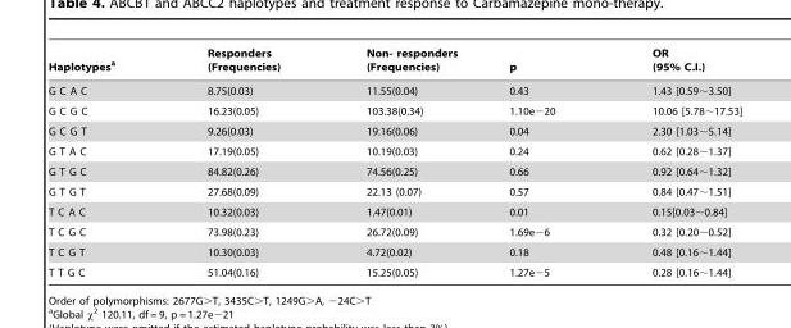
<table><thead><tr><td>Haplotypes<sup>a</sup></td><td>Responders (Frequencies)</td><td>Non- responders (Frequencies)</td><td>p</td><td>OR (95% C.I.)</td></tr></thead><tbody><tr><td>G C A C</td><td>8.75(0.03)</td><td>11.55(0.04)</td><td>0.43</td><td>1.43 [0.59∼3.50]</td></tr><tr><td>G C G C</td><td>16.23(0.05)</td><td>103.38(0.34)</td><td>1.10e−20</td><td>10.06 [5.78∼17.53]</td></tr><tr><td>G C G T</td><td>9.26(0.03)</td><td>19.16(0.06)</td><td>0.04</td><td>2.30 [1.03∼5.14]</td></tr><tr><td>G T A C</td><td>17.19(0.05)</td><td>10.19(0.03)</td><td>0.24</td><td>0.62 [0.28∼1.37]</td></tr><tr><td>G T G C</td><td>84.82(0.26)</td><td>74.56(0.25)</td><td>0.66</td><td>0.92 [0.64∼1.32]</td></tr><tr><td>G T G T</td><td>27.68(0.09)</td><td>22.13 (0.07)</td><td>0.57</td><td>0.84 [0.47∼1.51]</td></tr><tr><td>T C A C</td><td>10.32(0.03)</td><td>1.47(0.01)</td><td>0.01</td><td>0.15[0.03∼0.84]</td></tr><tr><td>T C G C</td><td>73.98(0.23)</td><td>26.72(0.09)</td><td>1.69e−6</td><td>0.32 [0.20∼0.52]</td></tr><tr><td>T C G T</td><td>10.30(0.03)</td><td>4.72(0.02)</td><td>0.18</td><td>0.48 [0.16∼1.44]</td></tr><tr><td>T T G C</td><td>51.04(0.16)</td><td>15.25(0.05)</td><td>1.27e−5</td><td>0.28 [0.16∼1.44]</td></tr></tbody></table>